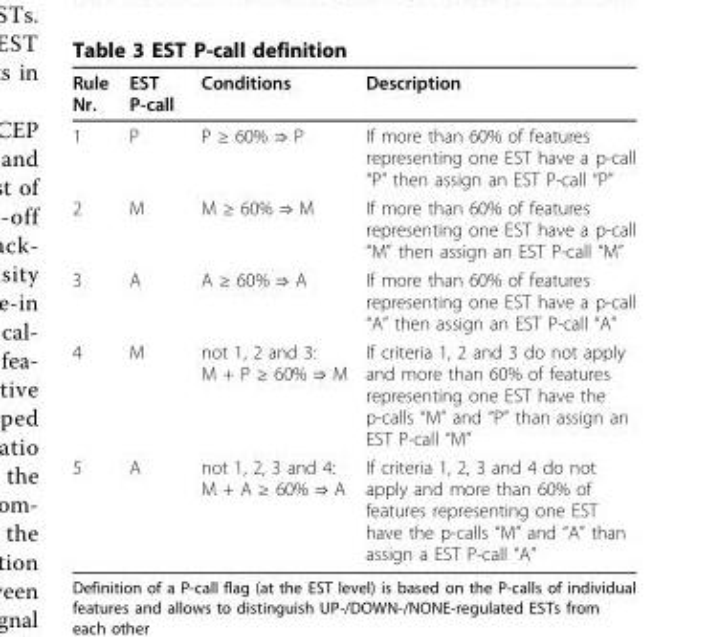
<table><thead><tr><td>Rule Nr.</td><td>EST P-call</td><td>Conditions</td><td>Description</td></tr></thead><tbody><tr><td>1</td><td>P</td><td>P ≥ 60% ⇒ P</td><td>If more than 60% of features representing one EST have a p-call “P” then assign an EST P-call “P”</td></tr><tr><td>2</td><td>M</td><td>M ≥ 60% ⇒ M</td><td>If more than 60% of features representing one EST have a p-call “M” then assign an EST P-call “M”</td></tr><tr><td>3</td><td>A</td><td>A ≥ 60% ⇒ A</td><td>If more than 60% of features representing one EST have a p-call “A” then assign an EST P-call “A”</td></tr><tr><td>4</td><td>M</td><td>not 1, 2 and 3: M + P ≥ 60% ⇒ M</td><td>If criteria 1, 2 and 3 do not apply and more than 60% of features representing one EST have the p-calls “M” and “P” than assign an EST P-call “M”</td></tr><tr><td>5</td><td>A</td><td>not 1, 2, 3 and 4: M + A ≥ 60% ⇒ A</td><td>If criteria 1, 2, 3 and 4 do not apply and more than 60% of features representing one EST have the p-calls “M” and “A” than assign a EST P-call “A”</td></tr></tbody></table>